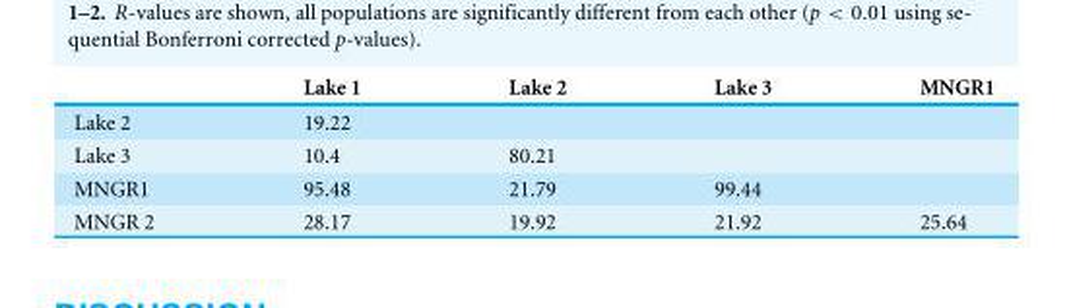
<table><thead><tr><td></td><td>Lake 1</td><td>Lake 2</td><td>Lake 3</td><td>MNGR1</td></tr></thead><tbody><tr><td>Lake 2</td><td>19.22</td><td></td><td></td><td></td></tr><tr><td>Lake 3</td><td>10.4</td><td>80.21</td><td></td><td></td></tr><tr><td>MNGR1</td><td>95.48</td><td>21.79</td><td>99.44</td><td></td></tr><tr><td>MNGR 2</td><td>28.17</td><td>19.92</td><td>21.92</td><td>25.64</td></tr></tbody></table>